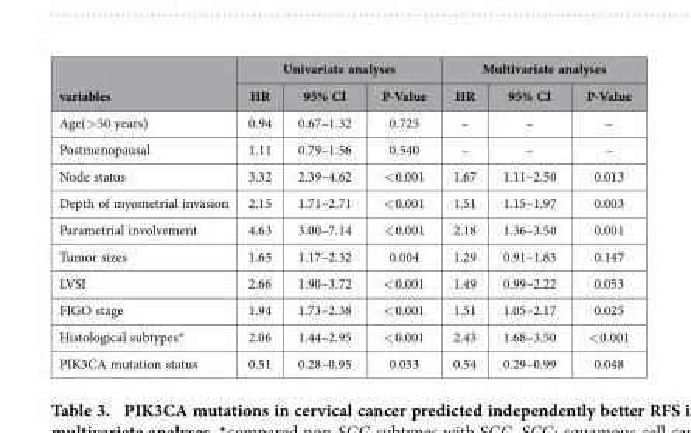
<table><thead><tr><td rowspan="2">variables</td><td colspan="3">Univariate analyses</td><td colspan="3">Multivariate analyses</td></tr><tr><td>HR</td><td>95% CI</td><td>P-Value</td><td>HR</td><td>95% CI</td><td>P-Value</td></tr></thead><tbody><tr><td>Age(&gt; 50 years)</td><td>0.94</td><td>0.67–1.32</td><td>0.725</td><td>–</td><td>–</td><td>–</td></tr><tr><td>Postmenopausal</td><td>1.11</td><td>0.79–1.56</td><td>0.540</td><td>–</td><td>–</td><td>–</td></tr><tr><td>Node status</td><td>3.32</td><td>2.39–4.62</td><td>&lt; 0.001</td><td>1.67</td><td>1.11–2.50</td><td>0.013</td></tr><tr><td>Depth of myometrial invasion</td><td>2.15</td><td>1.71–2.71</td><td>&lt; 0.001</td><td>1.51</td><td>1.15–1.97</td><td>0.003</td></tr><tr><td>Parametrial involvement</td><td>4.63</td><td>3.00–7.14</td><td>&lt; 0.001</td><td>2.18</td><td>1.36–3.50</td><td>0.001</td></tr><tr><td>Tumor sizes</td><td>1.65</td><td>1.17–2.32</td><td>0.004</td><td>1.29</td><td>0.91–1.83</td><td>0.147</td></tr><tr><td>LVSI</td><td>2.66</td><td>1.90–3.72</td><td>&lt; 0.001</td><td>1.49</td><td>0.99–2.22</td><td>0.053</td></tr><tr><td>FIGO stage</td><td>1.94</td><td>1.73–2.38</td><td>&lt; 0.001</td><td>1.51</td><td>1.05–2.17</td><td>0.025</td></tr><tr><td>Histological subtypes*</td><td>2.06</td><td>1.44–2.95</td><td>&lt; 0.001</td><td>2.43</td><td>1.68–3.50</td><td>&lt; 0.001</td></tr><tr><td>PIK3CA mutation status</td><td>0.51</td><td>0.28–0.95</td><td>0.033</td><td>0.54</td><td>0.29–0.99</td><td>0.048</td></tr></tbody></table>